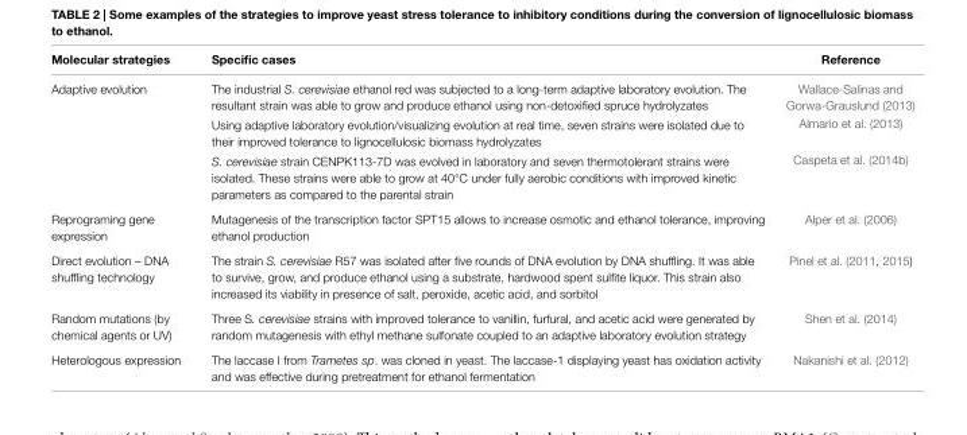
<table><thead><tr><td>Molecular strategies</td><td>Specific cases</td><td>Reference</td></tr></thead><tbody><tr><td rowspan="3">Adaptive evolution</td><td>The industrial S. cerevisiae ethanol red was subjected to a long-term adaptive laboratory evolution. The resultant strain was able to grow and produce ethanol using non-detoxified spruce hydrolyzates</td><td>Wallace-Salinas and Gorwa-Grauslund (2013)</td></tr><tr><td>Using adaptive laboratory evolution/visualizing evolution at real time, seven strains were isolated due to their improved tolerance to lignocellulosic biomass hydrolyzates</td><td>Almario et al. (2013)</td></tr><tr><td>S. cerevisiae strain CENPK113-7D was evolved in laboratory and seven thermotolerant strains were isolated. These strains were able to grow at 40°C under fully aerobic conditions with improved kinetic parameters as compared to the parental strain</td><td>Caspeta et al. (2014b)</td></tr><tr><td>Reprograming gene expression</td><td>Mutagenesis of the transcription factor SPT15 allows to increase osmotic and ethanol tolerance, improving ethanol production</td><td>Alper et al. (2006)</td></tr><tr><td>Direct evolution – DNA shuffling technology</td><td>The strain S. cerevisiae R57 was isolated after five rounds of DNA evolution by DNA shuffling. It was able to survive, grow, and produce ethanol using a substrate, hardwood spent sulfite liquor. This strain also increased its viability in presence of salt, peroxide, acetic acid, and sorbitol</td><td>Pinel et al. (2011, 2015)</td></tr><tr><td>Random mutations (by chemical agents or UV)</td><td>Three S. cerevisiae strains with improved tolerance to vanillin, furfural, and acetic acid were generated by random mutagenesis with ethyl methane sulfonate coupled to an adaptive laboratory evolution strategy</td><td>Shen et al. (2014)</td></tr><tr><td>Heterologous expression</td><td>The laccase I from Trametes sp. was cloned in yeast. The laccase-1 displaying yeast has oxidation activity and was effective during pretreatment for ethanol fermentation</td><td>Nakanishi et al. (2012)</td></tr></tbody></table>